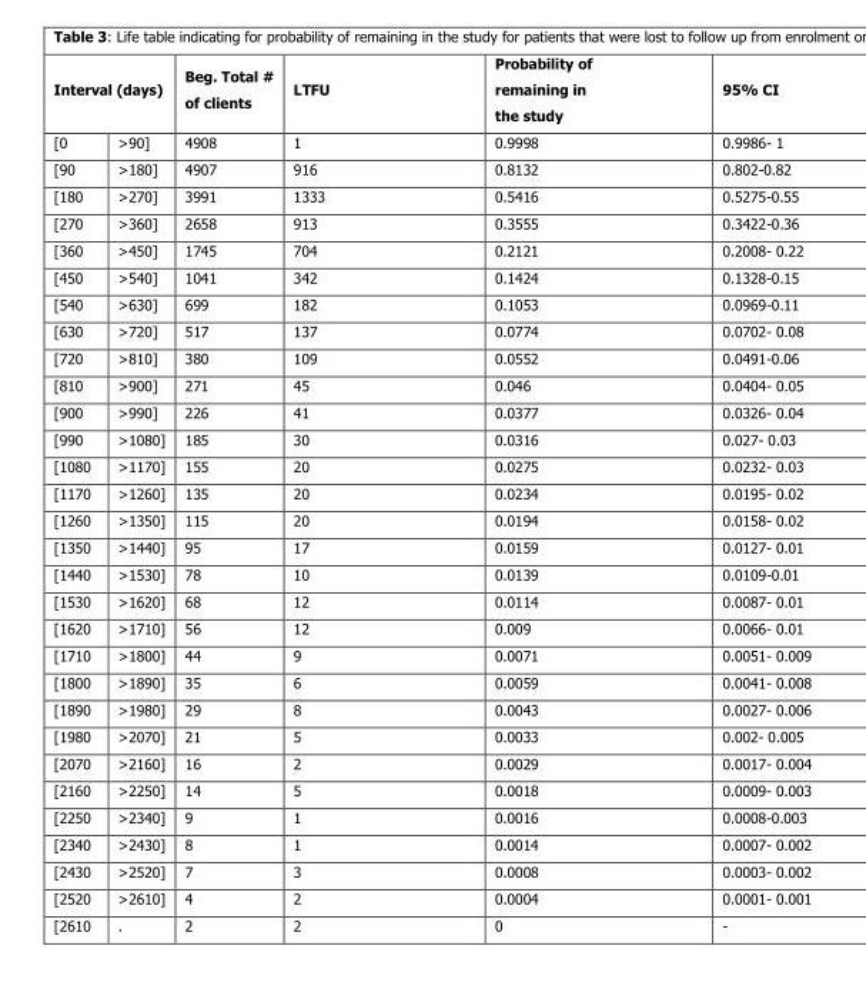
<table><thead><tr><td colspan="2">Interval (days)</td><td rowspan="2">Beg. Total # of clients 4908</td><td rowspan="2">LTFU 1</td><td rowspan="2">Probability of remaining in the study 0.9998</td><td rowspan="2">95% CI 0.9986- 1</td></tr><tr><td>[0</td><td>&gt;90]</td></tr></thead><tbody><tr><td>[90</td><td>&gt;180]</td><td>4907</td><td>916</td><td>0.8132</td><td>0.802-0.82</td></tr><tr><td>[180</td><td>&gt;270]</td><td>3991</td><td>1333</td><td>0.5416</td><td>0.5275-0.55</td></tr><tr><td>[270</td><td>&gt;360]</td><td>2658</td><td>913</td><td>0.3555</td><td>0.3422-0.36</td></tr><tr><td>[360</td><td>&gt;450]</td><td>1745</td><td>704</td><td>0.2121</td><td>0.2008- 0.22</td></tr><tr><td>[450</td><td>&gt;540]</td><td>1041</td><td>342</td><td>0.1424</td><td>0.1328-0.15</td></tr><tr><td>[540</td><td>&gt;630]</td><td>699</td><td>182</td><td>0.1053</td><td>0.0969-0.11</td></tr><tr><td>[630</td><td>&gt;720]</td><td>517</td><td>137</td><td>0.0774</td><td>0.0702- 0.08</td></tr><tr><td>[720</td><td>&gt;810]</td><td>380</td><td>109</td><td>0.0552</td><td>0.0491-0.06</td></tr><tr><td>[810</td><td>&gt;900]</td><td>271</td><td>45</td><td>0.046</td><td>0.0404- 0.05</td></tr><tr><td>[900</td><td>&gt;990]</td><td>226</td><td>41</td><td>0.0377</td><td>0.0326- 0.04</td></tr><tr><td>[990</td><td>&gt;1080]</td><td>185</td><td>30</td><td>0.0316</td><td>0.027- 0.03</td></tr><tr><td>[1080</td><td>&gt;1170]</td><td>155</td><td>20</td><td>0.0275</td><td>0.0232- 0.03</td></tr><tr><td>[1170</td><td>&gt;1260]</td><td>135</td><td>20</td><td>0.0234</td><td>0.0195- 0.02</td></tr><tr><td>[1260</td><td>&gt;1350]</td><td>115</td><td>20</td><td>0.0194</td><td>0.0158- 0.02</td></tr><tr><td>[1350</td><td>&gt;1440]</td><td>95</td><td>17</td><td>0.0159</td><td>0.0127- 0.01</td></tr><tr><td>[1440</td><td>&gt;1530]</td><td>78</td><td>10</td><td>0.0139</td><td>0.0109-0.01</td></tr><tr><td>[1530</td><td>&gt;1620]</td><td>68</td><td>12</td><td>0.0114</td><td>0.0087- 0.01</td></tr><tr><td>[1620</td><td>&gt;1710]</td><td>56</td><td>12</td><td>0.009</td><td>0.0066- 0.01</td></tr><tr><td>[1710</td><td>&gt;1800]</td><td>44</td><td>9</td><td>0.0071</td><td>0.0051- 0.009</td></tr><tr><td>[1800</td><td>&gt;1890]</td><td>35</td><td>6</td><td>0.0059</td><td>0.0041- 0.008</td></tr><tr><td>[1890</td><td>&gt;1980]</td><td>29</td><td>8</td><td>0.0043</td><td>0.0027- 0.006</td></tr><tr><td>[1980</td><td>&gt;2070]</td><td>21</td><td>5</td><td>0.0033</td><td>0.002- 0.005</td></tr><tr><td>[2070</td><td>&gt;2160]</td><td>16</td><td>2</td><td>0.0029</td><td>0.0017- 0.004</td></tr><tr><td>[2160</td><td>&gt;2250]</td><td>14</td><td>5</td><td>0.0018</td><td>0.0009- 0.003</td></tr><tr><td>[2250</td><td>&gt;2340]</td><td>9</td><td>1</td><td>0.0016</td><td>0.0008-0.003</td></tr><tr><td>[2340</td><td>&gt;2430]</td><td>8</td><td>1</td><td>0.0014</td><td>0.0007- 0.002</td></tr><tr><td>[2430</td><td>&gt;2520]</td><td>7</td><td>3</td><td>0.0008</td><td>0.0003- 0.002</td></tr><tr><td>[2520</td><td>&gt;2610]</td><td>4</td><td>2</td><td>0.0004</td><td>0.0001- 0.001</td></tr><tr><td>[2610</td><td>.</td><td>2</td><td>2</td><td>0</td><td>-</td></tr></tbody></table>